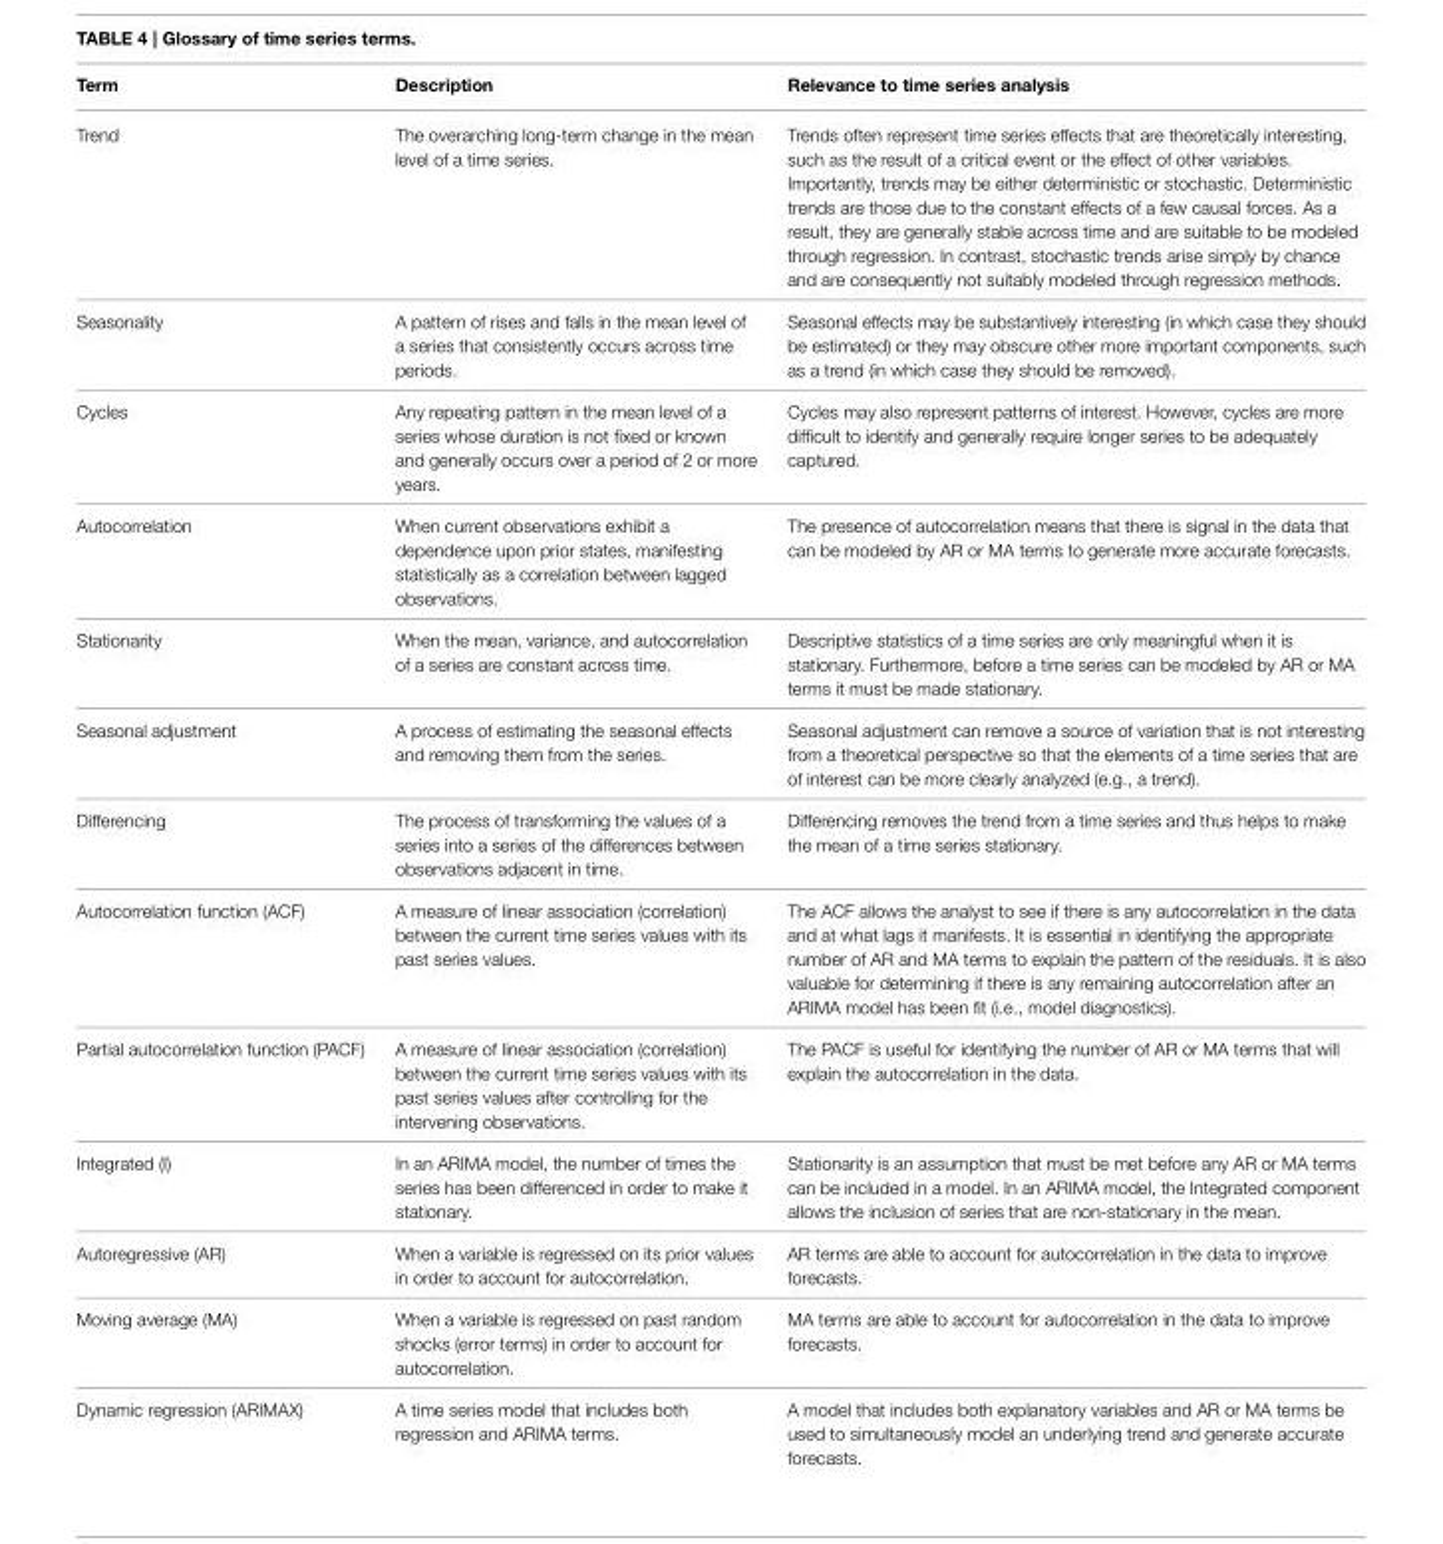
<table><thead><tr><td>Term</td><td>Description</td><td>Relevance to time series analysis</td></tr></thead><tbody><tr><td>Trend</td><td>The overarching long-term change in the mean level of a time series.</td><td>Trends often represent time series effects that are theoretically interesting, such as the result of a critical event or the effect of other variables. Importantly, trends may be either deterministic or stochastic. Deterministic trends are those due to the constant effects of a few causal forces. As a result, they are generally stable across time and are suitable to be modeled through regression. In contrast, stochastic trends arise simply by chance and are consequently not suitably modeled through regression methods.</td></tr><tr><td>Seasonality</td><td>A pattern of rises and falls in the mean level of a series that consistently occurs across time periods.</td><td>Seasonal effects may be substantively interesting (in which case they should be estimated) or they may obscure other more important components, such as a trend (in which case they should be removed).</td></tr><tr><td>Cycles</td><td>Any repeating pattern in the mean level of a series whose duration is not fixed or known and generally occurs over a period of 2 or more years.</td><td>Cycles may also represent patterns of interest. However, cycles are more difficult to identify and generally require longer series to be adequately captured.</td></tr><tr><td>Autocorrelation</td><td>When current observations exhibit a dependence upon prior states, manifesting statistically as a correlation between lagged observations.</td><td>The presence of autocorrelation means that there is signal in the data that can be modeled by AR or MA terms to generate more accurate forecasts.</td></tr><tr><td>Stationarity</td><td>When the mean, variance, and autocorrelation of a series are constant across time.</td><td>Descriptive statistics of a time series are only meaningful when it is stationary. Furthermore, before a time series can be modeled by AR or MA terms it must be made stationary.</td></tr><tr><td>Seasonal adjustment</td><td>A process of estimating the seasonal effects and removing them from the series.</td><td>Seasonal adjustment can remove a source of variation that is not interesting from a theoretical perspective so that the elements of a time series that are of interest can be more clearly analyzed (e.g., a trend).</td></tr><tr><td>Differencing</td><td>The process of transforming the values of a series into a series of the differences between observations adjacent in time.</td><td>Differencing removes the trend from a time series and thus helps to make the mean of a time series stationary.</td></tr><tr><td>Autocorrelation function (ACF)</td><td>A measure of linear association (correlation) between the current time series values with its past series values.</td><td>The ACF allows the analyst to see if there is any autocorrelation in the data and at what lags it manifests. It is essential in identifying the appropriate number of AR and MA terms to explain the pattern of the residuals. It is also valuable for determining if there is any remaining autocorrelation after an ARIMA model has been fit (i.e., model diagnostics).</td></tr><tr><td>Partial autocorrelation function (PACF)</td><td>A measure of linear association (correlation) between the current time series values with its past series values after controlling for the intervening observations.</td><td>The PACF is useful for identifying the number of AR or MA terms that will explain the autocorrelation in the data.</td></tr><tr><td>Integrated (I)</td><td>In an ARIMA model, the number of times the series has been differenced in order to make it stationary.</td><td>Stationarity is an assumption that must be met before any AR or MA terms can be included in a model. In an ARIMA model, the Integrated component allows the inclusion of series that are non-stationary in the mean.</td></tr><tr><td>Autoregressive (AR)</td><td>When a variable is regressed on its prior values in order to account for autocorrelation.</td><td>AR terms are able to account for autocorrelation in the data to improve forecasts.</td></tr><tr><td>Moving average (MA)</td><td>When a variable is regressed on past random shocks (error terms) in order to account for autocorrelation.</td><td>MA terms are able to account for autocorrelation in the data to improve forecasts.</td></tr><tr><td>Dynamic regression (ARIMAX)</td><td>A time series model that includes both regression and ARIMA terms.</td><td>A model that includes both explanatory variables and AR or MA terms be used to simultaneously model an underlying trend and generate accurate forecasts.</td></tr></tbody></table>